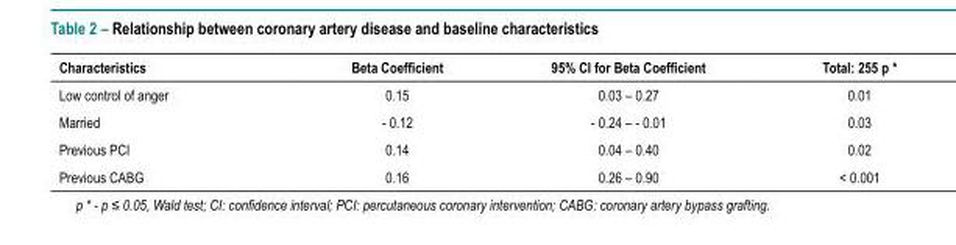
<table><thead><tr><td>Characteristics</td><td>Beta Coefficient</td><td>95% CI for Beta Coefficient</td><td>Total: 255 p *</td></tr></thead><tbody><tr><td>Low control of anger</td><td>0.15</td><td>0.03 – 0.27</td><td>0.01</td></tr><tr><td>Married</td><td>- 0.12</td><td>- 0.24 – - 0.01</td><td>0.03</td></tr><tr><td>Previous PCI</td><td>0.14</td><td>0.04 – 0.40</td><td>0.02</td></tr><tr><td>Previous CABG</td><td>0.16</td><td>0.26 – 0.90</td><td>&lt; 0.001</td></tr></tbody></table>